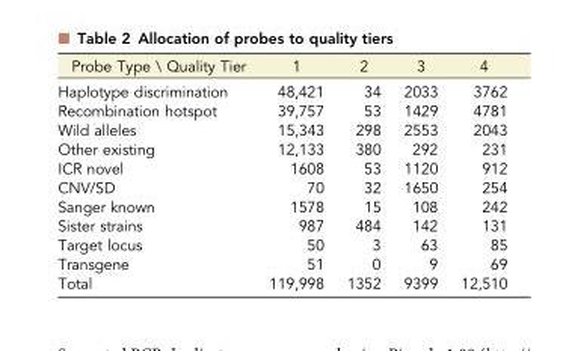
<table><thead><tr><td>Probe Type \ Quality Tier</td><td>1</td><td>2</td><td>3</td><td>4</td></tr></thead><tbody><tr><td>Haplotype discrimination</td><td>48,421</td><td>34</td><td>2033</td><td>3762</td></tr><tr><td>Recombination hotspot</td><td>39,757</td><td>53</td><td>1429</td><td>4781</td></tr><tr><td>Wild alleles</td><td>15,343</td><td>298</td><td>2553</td><td>2043</td></tr><tr><td>Other existing</td><td>12,133</td><td>380</td><td>292</td><td>231</td></tr><tr><td>ICR novel</td><td>1608</td><td>53</td><td>1120</td><td>912</td></tr><tr><td>CNV/SD</td><td>70</td><td>32</td><td>1650</td><td>254</td></tr><tr><td>Sanger known</td><td>1578</td><td>15</td><td>108</td><td>242</td></tr><tr><td>Sister strains</td><td>987</td><td>484</td><td>142</td><td>131</td></tr><tr><td>Target locus</td><td>50</td><td>3</td><td>63</td><td>85</td></tr><tr><td>Transgene</td><td>51</td><td>0</td><td>9</td><td>69</td></tr><tr><td>Total</td><td>119,998</td><td>1352</td><td>9399</td><td>12,510</td></tr></tbody></table>